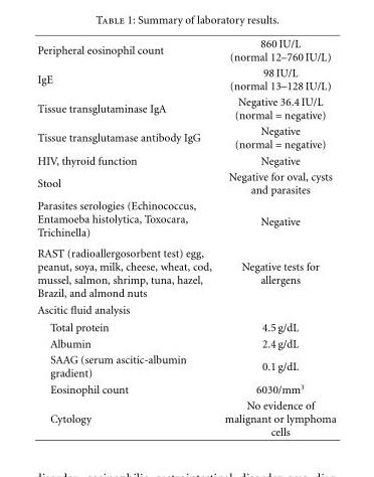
<table><tbody><tr><td>Peripheral eosinophil count</td><td>860 IU/L (normal 12–760 IU/L)</td></tr><tr><td>IgE</td><td>98 IU/L (normal 13–128 IU/L)</td></tr><tr><td>Tissue transglutaminase IgA</td><td>Negative 36.4 IU/L (normal = negative)</td></tr><tr><td>Tissue transglutamase antibody IgG</td><td>Negative (normal = negative)</td></tr><tr><td>HIV, thyroid function</td><td>Negative</td></tr><tr><td>Stool</td><td>Negative for oval, cysts and parasites</td></tr><tr><td>Parasites serologies (Echinococcus, Entamoeba histolytica, Toxocara, Trichinella)</td><td>Negative</td></tr><tr><td>RAST (radioallergosorbent test) egg, peanut, soya, milk, cheese, wheat, cod, mussel, salmon, shrimp, tuna, hazel, Brazil, and almond nuts</td><td>Negative tests for allergens</td></tr><tr><td colspan="2">Ascitic fluid analysis</td></tr><tr><td>Total protein</td><td>4.5 g/dL</td></tr><tr><td>Albumin</td><td>2.4 g/dL</td></tr><tr><td>SAAG (serum ascitic-albumin gradient)</td><td>0.1 g/dL</td></tr><tr><td>Eosinophil count</td><td>6030/mm<sup>3</sup></td></tr><tr><td>Cytology</td><td>No evidence of malignant or lymphoma cells</td></tr></tbody></table>